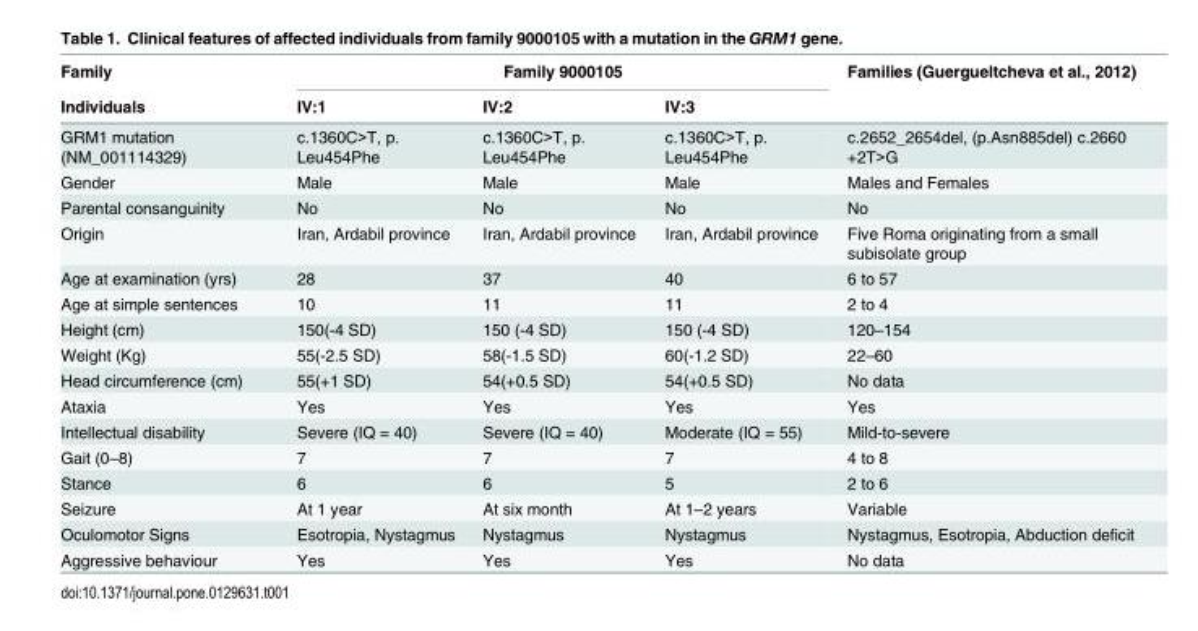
<table><thead><tr><td rowspan="2">Family Individuals</td><td colspan="3">Family 9000105</td><td rowspan="2">Families (Guergueltcheva et al., 2012)</td></tr><tr><td>IV:1</td><td>IV:2</td><td>IV:3</td></tr></thead><tbody><tr><td>GRM1 mutation (NM_001114329)</td><td>c.1360C&gt;T, p. Leu454Phe</td><td>c.1360C&gt;T, p. Leu454Phe</td><td>c.1360C&gt;T, p. Leu454Phe</td><td>c.2652_2654del, (p.Asn885del) c.2660 +2T&gt;G</td></tr><tr><td>Gender</td><td>Male</td><td>Male</td><td>Male</td><td>Males and Females</td></tr><tr><td>Parental consanguinity</td><td>No</td><td>No</td><td>No</td><td>No</td></tr><tr><td>Origin</td><td>Iran, Ardabil province</td><td>Iran, Ardabil province</td><td>Iran, Ardabil province</td><td>Five Roma originating from a small subisolate group</td></tr><tr><td>Age at examination (yrs)</td><td>28</td><td>37</td><td>40</td><td>6 to 57</td></tr><tr><td>Age at simple sentences</td><td>10</td><td>11</td><td>11</td><td>2 to 4</td></tr><tr><td>Height (cm)</td><td>150(-4 SD)</td><td>150 (-4 SD)</td><td>150 (-4 SD)</td><td>120–154</td></tr><tr><td>Weight (Kg)</td><td>55(-2.5 SD)</td><td>58(-1.5 SD)</td><td>60(-1.2 SD)</td><td>22–60</td></tr><tr><td>Head circumference (cm)</td><td>55(+1 SD)</td><td>54(+0.5 SD)</td><td>54(+0.5 SD)</td><td>No data</td></tr><tr><td>Ataxia</td><td>Yes</td><td>Yes</td><td>Yes</td><td>Yes</td></tr><tr><td>Intellectual disability</td><td>Severe (IQ = 40)</td><td>Severe (IQ = 40)</td><td>Moderate (IQ = 55)</td><td>Mild-to-severe</td></tr><tr><td>Gait (0–8)</td><td>7</td><td>7</td><td>7</td><td>4 to 8</td></tr><tr><td>Stance</td><td>6</td><td>6</td><td>5</td><td>2 to 6</td></tr><tr><td>Seizure</td><td>At 1 year</td><td>At six month</td><td>At 1–2 years</td><td>Variable</td></tr><tr><td>Oculomotor Signs</td><td>Esotropia, Nystagmus</td><td>Nystagmus</td><td>Nystagmus</td><td>Nystagmus, Esotropia, Abduction deficit</td></tr><tr><td>Aggressive behaviour</td><td>Yes</td><td>Yes</td><td>Yes</td><td>No data</td></tr></tbody></table>